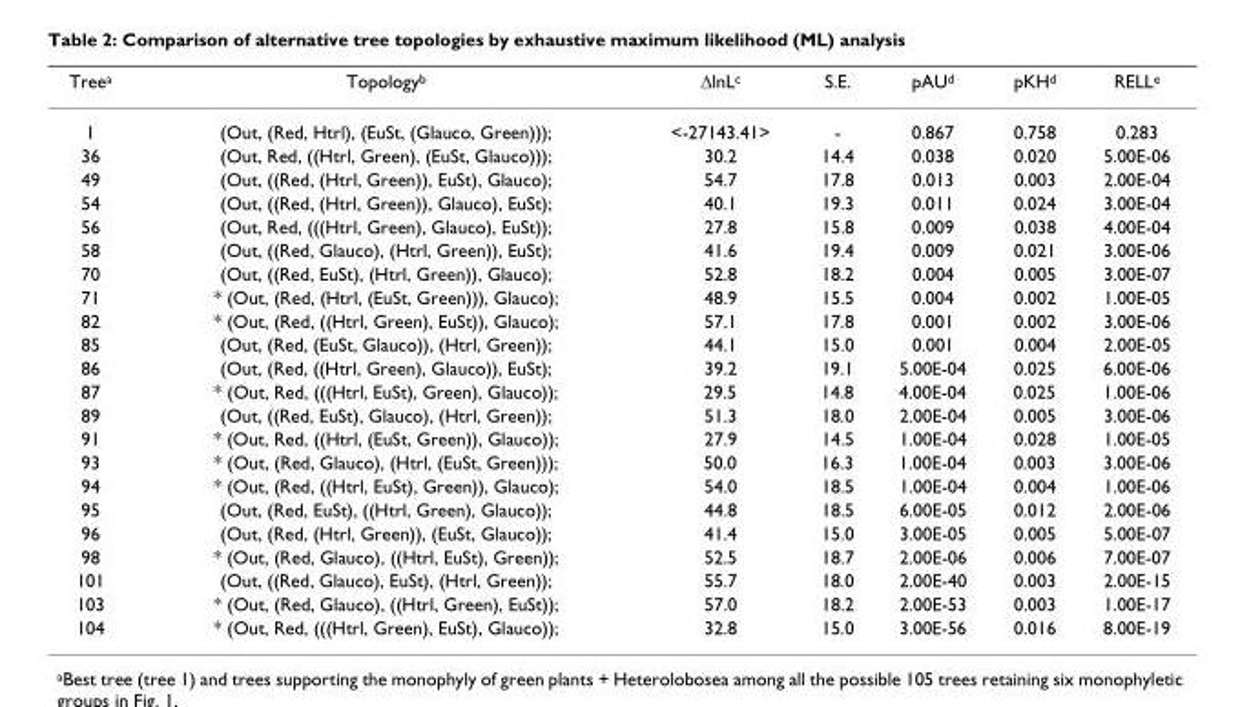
<table><thead><tr><td>Tree<sup>a</sup></td><td>Topology<sup>b</sup></td><td>ΔlnL<sup>c</sup></td><td>S.E.</td><td>pAU<sup>d</sup></td><td>pKH<sup>d</sup></td><td>RELL<sup>e</sup></td></tr></thead><tbody><tr><td>1</td><td>(Out, (Red, Htrl), (EuSt, (Glauco, Green)));</td><td>&lt;-27143.41&gt;</td><td>-</td><td>0.867</td><td>0.758</td><td>0.283</td></tr><tr><td>36</td><td>(Out, Red, ((Htrl, Green), (EuSt, Glauco)));</td><td>30.2</td><td>14.4</td><td>0.038</td><td>0.020</td><td>5.00E-06</td></tr><tr><td>49</td><td>(Out, ((Red, (Htrl, Green)), EuSt), Glauco);</td><td>54.7</td><td>17.8</td><td>0.013</td><td>0.003</td><td>2.00E-04</td></tr><tr><td>54</td><td>(Out, ((Red, (Htrl, Green)), Glauco), EuSt);</td><td>40.1</td><td>19.3</td><td>0.011</td><td>0.024</td><td>3.00E-04</td></tr><tr><td>56</td><td>(Out, Red, (((Htrl, Green), Glauco), EuSt));</td><td>27.8</td><td>15.8</td><td>0.009</td><td>0.038</td><td>4.00E-04</td></tr><tr><td>58</td><td>(Out, ((Red, Glauco), (Htrl, Green)), EuSt);</td><td>41.6</td><td>19.4</td><td>0.009</td><td>0.021</td><td>3.00E-06</td></tr><tr><td>70</td><td>(Out, ((Red, EuSt), (Htrl, Green)), Glauco);</td><td>52.8</td><td>18.2</td><td>0.004</td><td>0.005</td><td>3.00E-07</td></tr><tr><td>71</td><td>* (Out, (Red, (Htrl, (EuSt, Green))), Glauco);</td><td>48.9</td><td>15.5</td><td>0.004</td><td>0.002</td><td>1.00E-05</td></tr><tr><td>82</td><td>* (Out, (Red, ((Htrl, Green), EuSt)), Glauco);</td><td>57.1</td><td>17.8</td><td>0.001</td><td>0.002</td><td>3.00E-06</td></tr><tr><td>85</td><td>(Out, (Red, (EuSt, Glauco)), (Htrl, Green));</td><td>44.1</td><td>15.0</td><td>0.001</td><td>0.004</td><td>2.00E-05</td></tr><tr><td>86</td><td>(Out, (Red, ((Htrl, Green), Glauco)), EuSt);</td><td>39.2</td><td>19.1</td><td>5.00E-04</td><td>0.025</td><td>6.00E-06</td></tr><tr><td>87</td><td>* (Out, Red, (((Htrl, EuSt), Green), Glauco));</td><td>29.5</td><td>14.8</td><td>4.00E-04</td><td>0.025</td><td>1.00E-06</td></tr><tr><td>89</td><td>(Out, ((Red, EuSt), Glauco), (Htrl, Green));</td><td>51.3</td><td>18.0</td><td>2.00E-04</td><td>0.005</td><td>3.00E-06</td></tr><tr><td>91</td><td>* (Out, Red, ((Htrl, (EuSt, Green)), Glauco));</td><td>27.9</td><td>14.5</td><td>1.00E-04</td><td>0.028</td><td>1.00E-05</td></tr><tr><td>93</td><td>* (Out, (Red, Glauco), (Htrl, (EuSt, Green)));</td><td>50.0</td><td>16.3</td><td>1.00E-04</td><td>0.003</td><td>3.00E-06</td></tr><tr><td>94</td><td>* (Out, (Red, ((Htrl, EuSt), Green)), Glauco);</td><td>54.0</td><td>18.5</td><td>1.00E-04</td><td>0.004</td><td>1.00E-06</td></tr><tr><td>95</td><td>(Out, (Red, EuSt), ((Htrl, Green), Glauco));</td><td>44.8</td><td>18.5</td><td>6.00E-05</td><td>0.012</td><td>2.00E-06</td></tr><tr><td>96</td><td>(Out, (Red, (Htrl, Green)), (EuSt, Glauco));</td><td>41.4</td><td>15.0</td><td>3.00E-05</td><td>0.005</td><td>5.00E-07</td></tr><tr><td>98</td><td>* (Out, (Red, Glauco), ((Htrl, EuSt), Green));</td><td>52.5</td><td>18.7</td><td>2.00E-06</td><td>0.006</td><td>7.00E-07</td></tr><tr><td>101</td><td>(Out, ((Red, Glauco), EuSt), (Htrl, Green));</td><td>55.7</td><td>18.0</td><td>2.00E-40</td><td>0.003</td><td>2.00E-15</td></tr><tr><td>103</td><td>* (Out, (Red, Glauco), ((Htrl, Green), EuSt));</td><td>57.0</td><td>18.2</td><td>2.00E-53</td><td>0.003</td><td>1.00E-17</td></tr><tr><td>104</td><td>* (Out, Red, (((Htrl, Green), EuSt), Glauco));</td><td>32.8</td><td>15.0</td><td>3.00E-56</td><td>0.016</td><td>8.00E-19</td></tr></tbody></table>